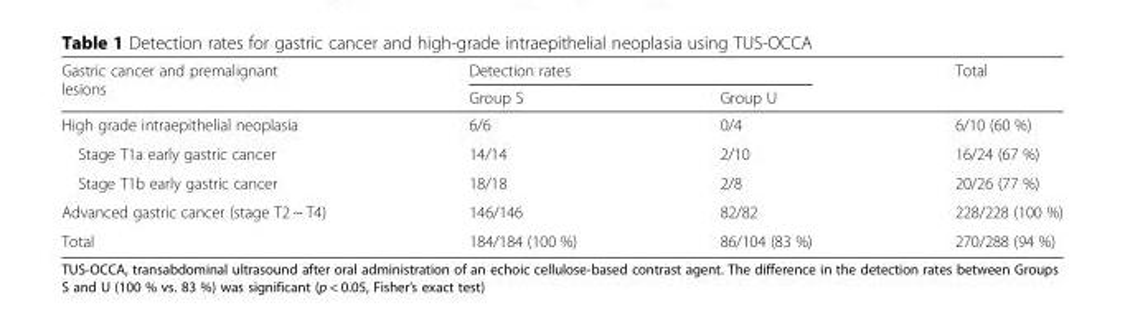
<table><thead><tr><td rowspan="2">Gastric cancer and premalignant lesions</td><td colspan="2">Detection rates</td><td rowspan="2">Total</td></tr><tr><td>Group S</td><td>Group U</td></tr></thead><tbody><tr><td>High grade intraepithelial neoplasia</td><td>6/6</td><td>0/4</td><td>6/10 (60 %)</td></tr><tr><td>Stage T1a early gastric cancer</td><td>14/14</td><td>2/10</td><td>16/24 (67 %)</td></tr><tr><td>Stage T1b early gastric cancer</td><td>18/18</td><td>2/8</td><td>20/26 (77 %)</td></tr><tr><td>Advanced gastric cancer (stage T2 ~ T4)</td><td>146/146</td><td>82/82</td><td>228/228 (100 %)</td></tr><tr><td>Total</td><td>184/184 (100 %)</td><td>86/104 (83 %)</td><td>270/288 (94 %)</td></tr></tbody></table>